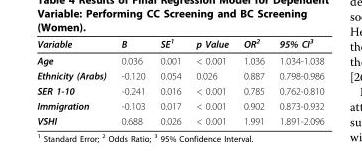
<table><thead><tr><td>Variable</td><td>B</td><td>SE<sup>1</sup></td><td>p Value</td><td>OR<sup>2</sup></td><td>95% CI<sup>3</sup></td></tr></thead><tbody><tr><td>Age</td><td>0.036</td><td>0.001</td><td>&lt; 0.001</td><td>1.036</td><td>1.034-1.038</td></tr><tr><td>Ethnicity (Arabs)</td><td>-0.120</td><td>0.054</td><td>0.026</td><td>0.887</td><td>0.798-0.986</td></tr><tr><td>SER 1-10</td><td>-0.241</td><td>0.016</td><td>&lt; 0.001</td><td>0.785</td><td>0.762-0.810</td></tr><tr><td>Immigration</td><td>-0.103</td><td>0.017</td><td>&lt; 0.001</td><td>0.902</td><td>0.873-0.932</td></tr><tr><td>VSHI</td><td>0.688</td><td>0.026</td><td>&lt; 0.001</td><td>1.991</td><td>1.891-2.096</td></tr></tbody></table>